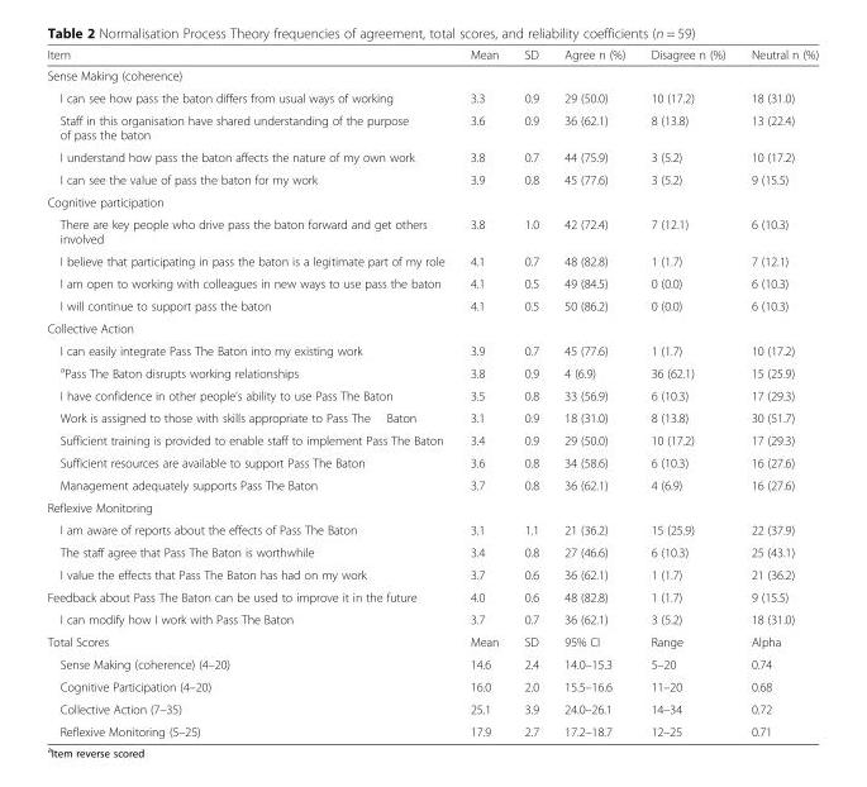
<table><thead><tr><td>Item</td><td>Mean</td><td>SD</td><td>Agree n (%)</td><td>Disagree n (%)</td><td>Neutral n (%)</td></tr></thead><tbody><tr><td colspan="6">Sense Making (coherence)</td></tr><tr><td>I can see how pass the baton differs from usual ways of working</td><td>3.3</td><td>0.9</td><td>29 (50.0)</td><td>10 (17.2)</td><td>18 (31.0)</td></tr><tr><td>Staff in this organisation have shared understanding of the purpose of pass the baton</td><td>3.6</td><td>0.9</td><td>36 (62.1)</td><td>8 (13.8)</td><td>13 (22.4)</td></tr><tr><td>I understand how pass the baton affects the nature of my own work</td><td>3.8</td><td>0.7</td><td>44 (75.9)</td><td>3 (5.2)</td><td>10 (17.2)</td></tr><tr><td>I can see the value of pass the baton for my work</td><td>3.9</td><td>0.8</td><td>45 (77.6)</td><td>3 (5.2)</td><td>9 (15.5)</td></tr><tr><td colspan="6">Cognitive participation</td></tr><tr><td>There are key people who drive pass the baton forward and get others involved</td><td>3.8</td><td>1.0</td><td>42 (72.4)</td><td>7 (12.1)</td><td>6 (10.3)</td></tr><tr><td>I believe that participating in pass the baton is a legitimate part of my role</td><td>4.1</td><td>0.7</td><td>48 (82.8)</td><td>1 (1.7)</td><td>7 (12.1)</td></tr><tr><td>I am open to working with colleagues in new ways to use pass the baton</td><td>4.1</td><td>0.5</td><td>49 (84.5)</td><td>0 (0.0)</td><td>6 (10.3)</td></tr><tr><td>I will continue to support pass the baton</td><td>4.1</td><td>0.5</td><td>50 (86.2)</td><td>0 (0.0)</td><td>6 (10.3)</td></tr><tr><td colspan="6">Collective Action</td></tr><tr><td>I can easily integrate Pass The Baton into my existing work</td><td>3.9</td><td>0.7</td><td>45 (77.6)</td><td>1 (1.7)</td><td>10 (17.2)</td></tr><tr><td><sup>a</sup>Pass The Baton disrupts working relationships</td><td>3.8</td><td>0.9</td><td>4 (6.9)</td><td>36 (62.1)</td><td>15 (25.9)</td></tr><tr><td>I have confidence in other people’s ability to use Pass The Baton</td><td>3.5</td><td>0.8</td><td>33 (56.9)</td><td>6 (10.3)</td><td>17 (29.3)</td></tr><tr><td>Work is assigned to those with skills appropriate to Pass The Baton</td><td>3.1</td><td>0.9</td><td>18 (31.0)</td><td>8 (13.8)</td><td>30 (51.7)</td></tr><tr><td>Sufficient training is provided to enable staff to implement Pass The Baton</td><td>3.4</td><td>0.9</td><td>29 (50.0)</td><td>10 (17.2)</td><td>17 (29.3)</td></tr><tr><td>Sufficient resources are available to support Pass The Baton</td><td>3.6</td><td>0.8</td><td>34 (58.6)</td><td>6 (10.3)</td><td>16 (27.6)</td></tr><tr><td>Management adequately supports Pass The Baton</td><td>3.7</td><td>0.8</td><td>36 (62.1)</td><td>4 (6.9)</td><td>16 (27.6)</td></tr><tr><td colspan="6">Reflexive Monitoring</td></tr><tr><td>I am aware of reports about the effects of Pass The Baton</td><td>3.1</td><td>1.1</td><td>21 (36.2)</td><td>15 (25.9)</td><td>22 (37.9)</td></tr><tr><td>The staff agree that Pass The Baton is worthwhile</td><td>3.4</td><td>0.8</td><td>27 (46.6)</td><td>6 (10.3)</td><td>25 (43.1)</td></tr><tr><td>I value the effects that Pass The Baton has had on my work</td><td>3.7</td><td>0.6</td><td>36 (62.1)</td><td>1 (1.7)</td><td>21 (36.2)</td></tr><tr><td>Feedback about Pass The Baton can be used to improve it in the future</td><td>4.0</td><td>0.6</td><td>48 (82.8)</td><td>1 (1.7)</td><td>9 (15.5)</td></tr><tr><td>I can modify how I work with Pass The Baton</td><td>3.7</td><td>0.7</td><td>36 (62.1)</td><td>3 (5.2)</td><td>18 (31.0)</td></tr><tr><td>Total Scores</td><td>Mean</td><td>SD</td><td>95% CI</td><td>Range</td><td>Alpha</td></tr><tr><td>Sense Making (coherence) (4–20)</td><td>14.6</td><td>2.4</td><td>14.0–15.3</td><td>5–20</td><td>0.74</td></tr><tr><td>Cognitive Participation (4–20)</td><td>16.0</td><td>2.0</td><td>15.5–16.6</td><td>11–20</td><td>0.68</td></tr><tr><td>Collective Action (7–35)</td><td>25.1</td><td>3.9</td><td>24.0–26.1</td><td>14–34</td><td>0.72</td></tr><tr><td>Reflexive Monitoring (5–25)</td><td>17.9</td><td>2.7</td><td>17.2–18.7</td><td>12–25</td><td>0.71</td></tr></tbody></table>